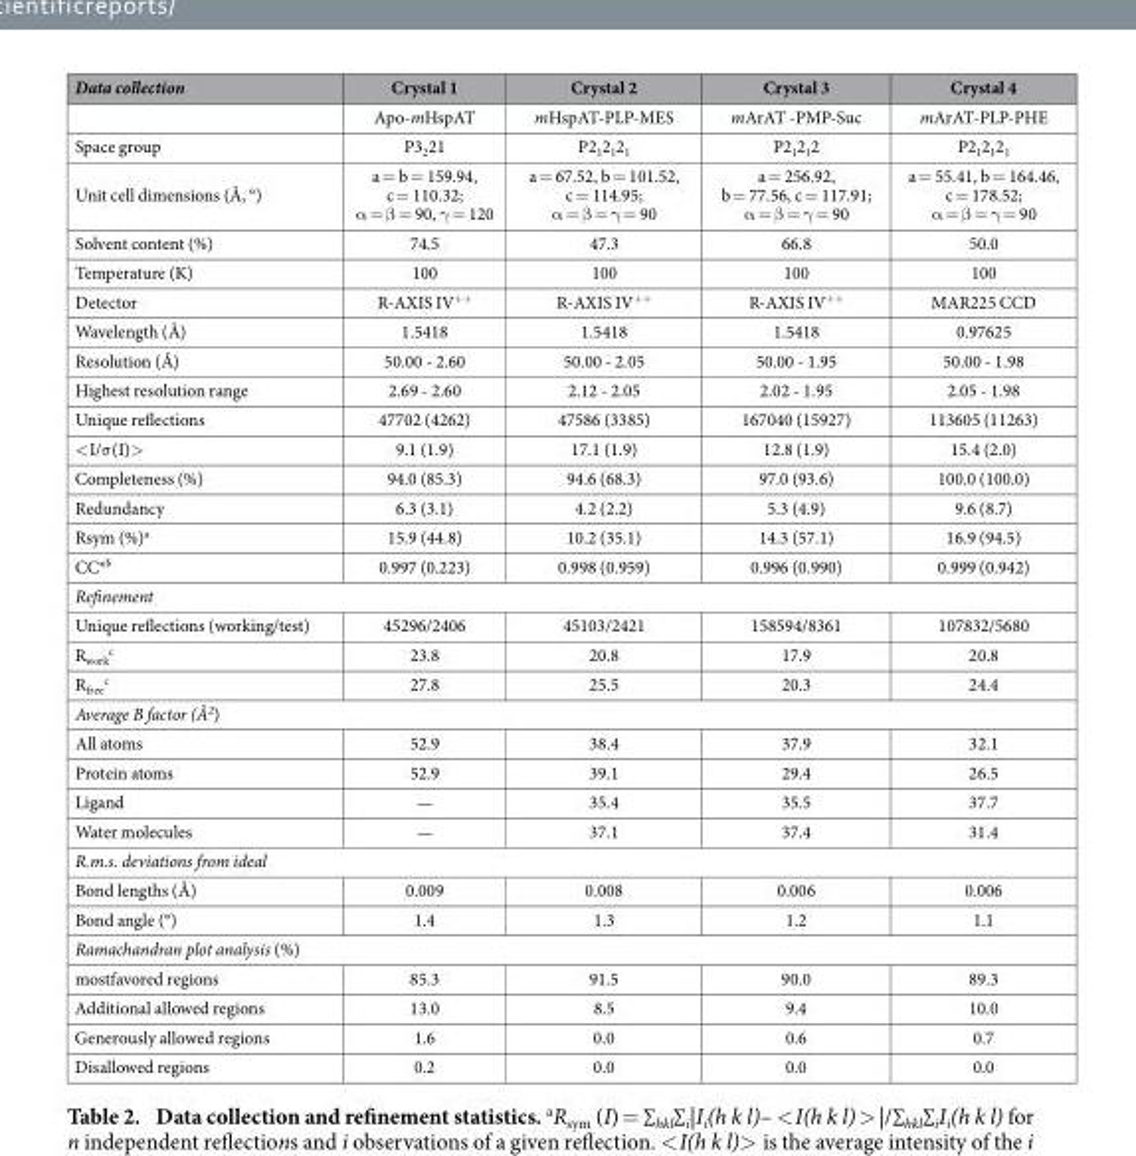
<table><thead><tr><td>Data collection</td><td>Crystal 1</td><td>Crystal 2</td><td>Crystal 3</td><td>Crystal 4</td></tr></thead><tbody><tr><td></td><td>Apo-mHspAT</td><td>mHspAT-PLP-MES</td><td>mArAT -PMP-Suc</td><td>mArAT-PLP-PHE</td></tr><tr><td>Space group</td><td>P3<sub>2</sub>21</td><td>P2<sub>1</sub>2<sub>1</sub>2<sub>1</sub></td><td>P2<sub>1</sub>2<sub>1</sub>2</td><td>P2<sub>1</sub>2<sub>1</sub>2<sub>1</sub></td></tr><tr><td>Unit cell dimensions (Å, °)</td><td>a = b = 159.94, c = 110.32; α = β = 90, γ = 120</td><td>a = 67.52, b = 101.52, c = 114.95; α = β = γ = 90</td><td>a = 256.92, b = 77.56, c = 117.91; α = β = γ = 90</td><td>a = 55.41, b = 164.46, c = 178.52; α = β = γ = 90</td></tr><tr><td>Solvent content (%)</td><td>74.5</td><td>47.3</td><td>66.8</td><td>50.0</td></tr><tr><td>Temperature (K)</td><td>100</td><td>100</td><td>100</td><td>100</td></tr><tr><td>Detector</td><td>R-AXIS IV<sup>++</sup></td><td>R-AXIS IV<sup>++</sup></td><td>R-AXIS IV<sup>++</sup></td><td>MAR225 CCD</td></tr><tr><td>Wavelength (Å)</td><td>1.5418</td><td>1.5418</td><td>1.5418</td><td>0.97625</td></tr><tr><td>Resolution (Å)</td><td>50.00 - 2.60</td><td>50.00 - 2.05</td><td>50.00 - 1.95</td><td>50.00 - 1.98</td></tr><tr><td>Highest resolution range</td><td>2.69 - 2.60</td><td>2.12 - 2.05</td><td>2.02 - 1.95</td><td>2.05 - 1.98</td></tr><tr><td>Unique reflections</td><td>47702 (4262)</td><td>47586 (3385)</td><td>167040 (15927)</td><td>113605 (11263)</td></tr><tr><td>&lt; I/σ (I)&gt;</td><td>9.1 (1.9)</td><td>17.1 (1.9)</td><td>12.8 (1.9)</td><td>15.4 (2.0)</td></tr><tr><td>Completeness (%)</td><td>94.0 (85.3)</td><td>94.6 (68.3)</td><td>97.0 (93.6)</td><td>100.0 (100.0)</td></tr><tr><td>Redundancy</td><td>6.3 (3.1)</td><td>4.2 (2.2)</td><td>5.3 (4.9)</td><td>9.6 (8.7)</td></tr><tr><td>Rsym (%)<sup>a</sup></td><td>15.9 (44.8)</td><td>10.2 (35.1)</td><td>14.3 (57.1)</td><td>16.9 (94.5)</td></tr><tr><td>CC*<sup>b</sup></td><td>0.997 (0.223)</td><td>0.998 (0.959)</td><td>0.996 (0.990)</td><td>0.999 (0.942)</td></tr><tr><td colspan="5">Refinement</td></tr><tr><td>Unique reflections (working/test)</td><td>45296/2406</td><td>45103/2421</td><td>158594/8361</td><td>107832/5680</td></tr><tr><td>R<sub>work</sub> <sup>c</sup></td><td>23.8</td><td>20.8</td><td>17.9</td><td>20.8</td></tr><tr><td>R<sub>free</sub> <sup>c</sup></td><td>27.8</td><td>25.5</td><td>20.3</td><td>24.4</td></tr><tr><td colspan="5">Average B factor (Å<sup>2</sup>)</td></tr><tr><td>All atoms</td><td>52.9</td><td>38.4</td><td>37.9</td><td>32.1</td></tr><tr><td>Protein atoms</td><td>52.9</td><td>39.1</td><td>29.4</td><td>26.5</td></tr><tr><td>Ligand</td><td>—</td><td>35.4</td><td>35.5</td><td>37.7</td></tr><tr><td>Water molecules</td><td>—</td><td>37.1</td><td>37.4</td><td>31.4</td></tr><tr><td colspan="5">R.m.s. deviations from ideal</td></tr><tr><td>Bond lengths (Å)</td><td>0.009</td><td>0.008</td><td>0.006</td><td>0.006</td></tr><tr><td>Bond angle (°)</td><td>1.4</td><td>1.3</td><td>1.2</td><td>1.1</td></tr><tr><td colspan="5">Ramachandran plot analysis (%)</td></tr><tr><td>mostfavored regions</td><td>85.3</td><td>91.5</td><td>90.0</td><td>89.3</td></tr><tr><td>Additional allowed regions</td><td>13.0</td><td>8.5</td><td>9.4</td><td>10.0</td></tr><tr><td>Generously allowed regions</td><td>1.6</td><td>0.0</td><td>0.6</td><td>0.7</td></tr><tr><td>Disallowed regions</td><td>0.2</td><td>0.0</td><td>0.0</td><td>0.0</td></tr></tbody></table>